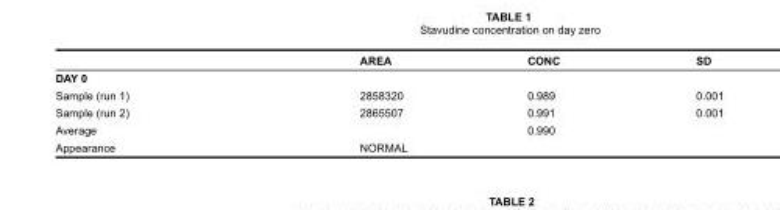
<table><thead><tr><td></td><td>AreA</td><td>CONC</td><td>SD</td></tr></thead><tbody><tr><td colspan="4">DAY 0</td></tr><tr><td>Sample (run 1)</td><td>2858320</td><td>0.989</td><td>0.001</td></tr><tr><td>Sample (run 2)</td><td>2865507</td><td>0.991</td><td>0.001</td></tr><tr><td>Average</td><td></td><td>0.990</td><td></td></tr><tr><td>Appearance</td><td>NORMAL</td><td></td><td></td></tr></tbody></table>